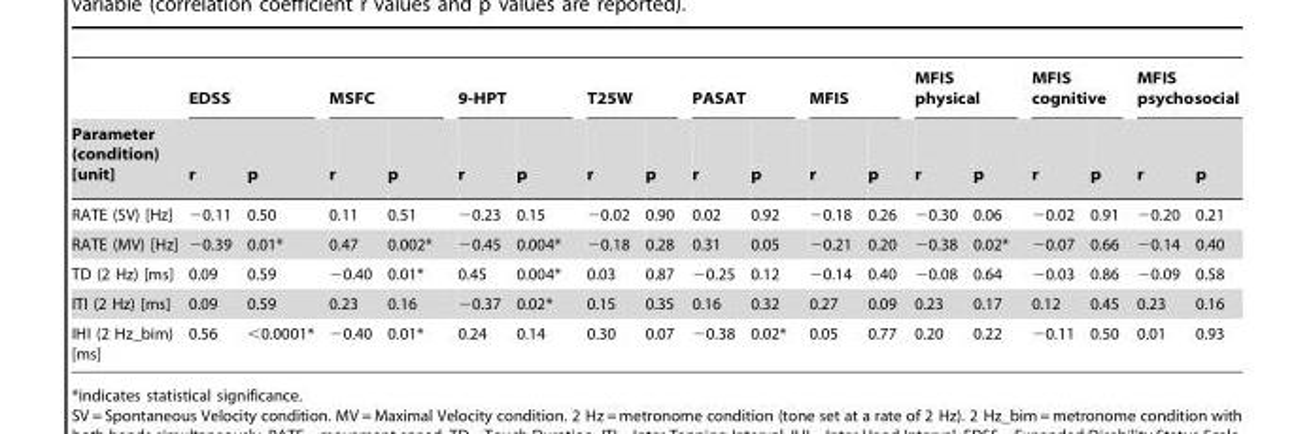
<table><thead><tr><td rowspan="2">Parameter (condition) [unit]</td><td colspan="2">EDSS</td><td colspan="2">MSFC</td><td colspan="2">9-HPT</td><td colspan="2">T25W</td><td colspan="2">PASAT</td><td colspan="2">MFIS</td><td colspan="2">MFIS physical</td><td colspan="2">MFIS cognitive</td><td colspan="2">MFIS psychosocial</td></tr><tr><td>r</td><td>p</td><td>r</td><td>p</td><td>r</td><td>p</td><td>r</td><td>p</td><td>r</td><td>p</td><td>r</td><td>p</td><td>r</td><td>p</td><td>r</td><td>p</td><td>r</td><td>p</td></tr></thead><tbody><tr><td>RATE (SV) [Hz]</td><td>−0.11</td><td>0.50</td><td>0.11</td><td>0.51</td><td>−0.23</td><td>0.15</td><td>−0.02</td><td>0.90</td><td>0.02</td><td>0.92</td><td>−0.18</td><td>0.26</td><td>−0.30</td><td>0.06</td><td>−0.02</td><td>0.91</td><td>−0.20</td><td>0.21</td></tr><tr><td>RATE (MV) [Hz]</td><td>−0.39</td><td>0.01*</td><td>0.47</td><td>0.002*</td><td>−0.45</td><td>0.004*</td><td>−0.18</td><td>0.28</td><td>0.31</td><td>0.05</td><td>−0.21</td><td>0.20</td><td>−0.38</td><td>0.02*</td><td>−0.07</td><td>0.66</td><td>−0.14</td><td>0.40</td></tr><tr><td>TD (2 Hz) [ms]</td><td>0.09</td><td>0.59</td><td>−0.40</td><td>0.01*</td><td>0.45</td><td>0.004*</td><td>0.03</td><td>0.87</td><td>−0.25</td><td>0.12</td><td>−0.14</td><td>0.40</td><td>−0.08</td><td>0.64</td><td>−0.03</td><td>0.86</td><td>−0.09</td><td>0.58</td></tr><tr><td>ITI (2 Hz) [ms]</td><td>0.09</td><td>0.59</td><td>0.23</td><td>0.16</td><td>−0.37</td><td>0.02*</td><td>0.15</td><td>0.35</td><td>0.16</td><td>0.32</td><td>0.27</td><td>0.09</td><td>0.23</td><td>0.17</td><td>0.12</td><td>0.45</td><td>0.23</td><td>0.16</td></tr><tr><td>IHI (2 Hz_bim) [ms]</td><td>0.56</td><td>&lt;0.0001*</td><td>−0.40</td><td>0.01*</td><td>0.24</td><td>0.14</td><td>0.30</td><td>0.07</td><td>−0.38</td><td>0.02*</td><td>0.05</td><td>0.77</td><td>0.20</td><td>0.22</td><td>−0.11</td><td>0.50</td><td>0.01</td><td>0.93</td></tr></tbody></table>